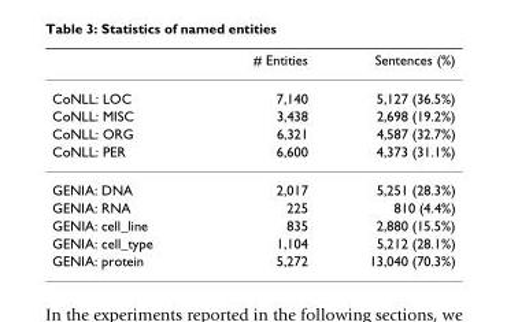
<table><thead><tr><td></td><td># Entities</td><td>Sentences (%)</td></tr></thead><tbody><tr><td>CoNLL: LOC</td><td>7,140</td><td>5,127 (36.5%)</td></tr><tr><td>CoNLL: MISC</td><td>3,438</td><td>2,698 (19.2%)</td></tr><tr><td>CoNLL: ORG</td><td>6,321</td><td>4,587 (32.7%)</td></tr><tr><td>CoNLL: PER</td><td>6,600</td><td>4,373 (31.1%)</td></tr><tr><td>GENIA: DNA</td><td>2,017</td><td>5,251 (28.3%)</td></tr><tr><td>GENIA: RNA</td><td>225</td><td>810 (4.4%)</td></tr><tr><td>GENIA: cell_line</td><td>835</td><td>2,880 (15.5%)</td></tr><tr><td>GENIA: cell_type</td><td>1,104</td><td>5,212 (28.1%)</td></tr><tr><td>GENIA: protein</td><td>5,272</td><td>13,040 (70.3%)</td></tr></tbody></table>